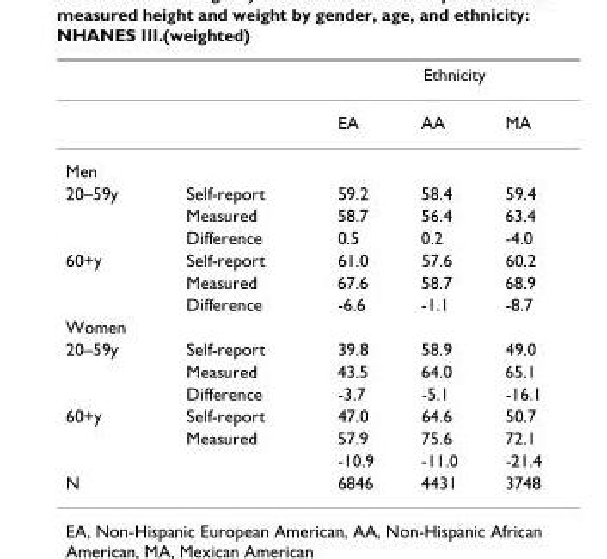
<table><thead><tr><td rowspan="2"></td><td rowspan="2"></td><td colspan="3">Ethnicity</td></tr><tr><td>EA</td><td>AA</td><td>MA</td></tr></thead><tbody><tr><td colspan="5">Men</td></tr><tr><td rowspan="3">20–59y</td><td>Self-report</td><td>59.2</td><td>58.4</td><td>59.4</td></tr><tr><td>Measured</td><td>58.7</td><td>56.4</td><td>63.4</td></tr><tr><td>Difference</td><td>0.5</td><td>0.2</td><td>-4.0</td></tr><tr><td rowspan="3">60+y</td><td>Self-report</td><td>61.0</td><td>57.6</td><td>60.2</td></tr><tr><td>Measured</td><td>67.6</td><td>58.7</td><td>68.9</td></tr><tr><td>Difference</td><td>-6.6</td><td>-1.1</td><td>-8.7</td></tr><tr><td colspan="5">Women</td></tr><tr><td rowspan="3">20–59y</td><td>Self-report</td><td>39.8</td><td>58.9</td><td>49.0</td></tr><tr><td>Measured</td><td>43.5</td><td>64.0</td><td>65.1</td></tr><tr><td>Difference</td><td>-3.7</td><td>-5.1</td><td>-16.1</td></tr><tr><td rowspan="3">60+y</td><td>Self-report</td><td>47.0</td><td>64.6</td><td>50.7</td></tr><tr><td>Measured</td><td>57.9</td><td>75.6</td><td>72.1</td></tr><tr><td></td><td>-10.9</td><td>-11.0</td><td>-21.4</td></tr><tr><td>N</td><td></td><td>6846</td><td>4431</td><td>3748</td></tr></tbody></table>